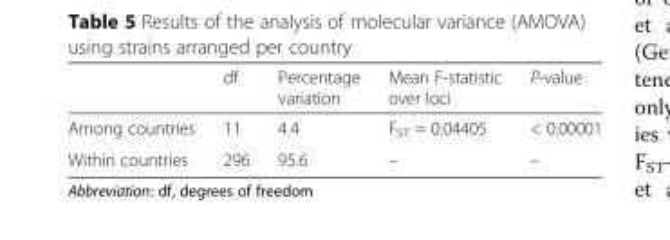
<table><thead><tr><td></td><td>df</td><td>Percentage variation</td><td>Mean F-statistic over loci</td><td>P-value</td></tr></thead><tbody><tr><td>Among countries</td><td>11</td><td>4.4</td><td>F<sub>ST</sub> = 0.04405</td><td>&lt; 0.00001</td></tr><tr><td>Within countries</td><td>296</td><td>95.6</td><td>–</td><td>–</td></tr></tbody></table>